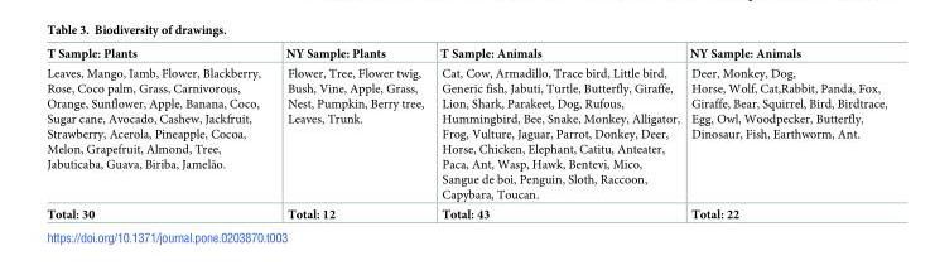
<table><thead><tr><td>T Sample: Plants</td><td>NY Sample: Plants</td><td>T Sample: Animals</td><td>NY Sample: Animals</td></tr></thead><tbody><tr><td>Leaves, Mango, Iamb, Flower, Blackberry, Rose, Coco palm, Grass, Carnivorous, Orange, Sunflower, Apple, Banana, Coco, Sugar cane, Avocado, Cashew, Jackfruit, Strawberry, Acerola, Pineapple, Cocoa, Melon, Grapefruit, Almond, Tree, Jabuticaba, Guava, Biriba, Jamelão.</td><td>Flower, Tree, Flower twig, Bush, Vine, Apple, Grass, Nest, Pumpkin, Berry tree, Leaves, Trunk.</td><td>Cat, Cow, Armadillo, Trace bird, Little bird, Generic fish, Jabuti, Turtle, Butterfly, Giraffe, Lion, Shark, Parakeet, Dog, Rufous, Hummingbird, Bee, Snake, Monkey, Alligator, Frog, Vulture, Jaguar, Parrot, Donkey, Deer, Horse, Chicken, Elephant, Catitu, Anteater, Paca, Ant, Wasp, Hawk, Bentevi, Mico, Sangue de boi, Penguin, Sloth, Raccoon, Capybara, Toucan.</td><td>Deer, Monkey, Dog, Horse, Wolf, Cat,Rabbit, Panda, Fox, Giraffe, Bear, Squirrel, Bird, Birdtrace, Egg, Owl, Woodpecker, Butterfly, Dinosaur, Fish, Earthworm, Ant.</td></tr><tr><td>Total: 30</td><td>Total: 12</td><td>Total: 43</td><td>Total: 22</td></tr></tbody></table>